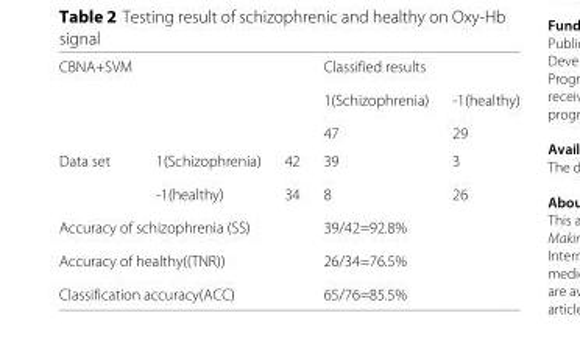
<table><tbody><tr><td rowspan="3">CBNA+SVM</td><td></td><td></td><td colspan="2">Classified results</td></tr><tr><td></td><td></td><td>1(Schizophrenia)</td><td>-1(healthy)</td></tr><tr><td></td><td></td><td>47</td><td>29</td></tr><tr><td rowspan="2">Data set</td><td>1(Schizophrenia)</td><td>42</td><td>39</td><td>3</td></tr><tr><td>-1(healthy)</td><td>34</td><td>8</td><td>26</td></tr><tr><td colspan="3">Accuracy of schizophrenia (SS)</td><td colspan="2">39/42=92.8%</td></tr><tr><td colspan="3">Accuracy of healthy((TNR))</td><td colspan="2">26/34=76.5%</td></tr><tr><td colspan="3">Classification accuracy(ACC)</td><td colspan="2">65/76=85.5%</td></tr></tbody></table>